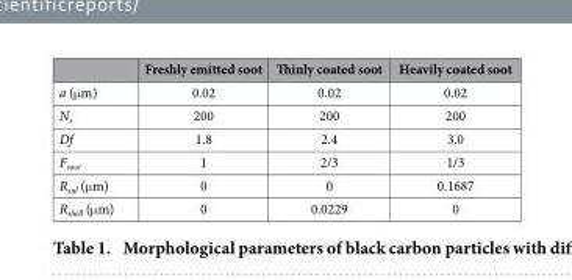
<table><thead><tr><td></td><td>Freshly emitted soot</td><td>Thinly coated soot</td><td>Heavily coated soot</td></tr></thead><tbody><tr><td>a (μ m)</td><td>0.02</td><td>0.02</td><td>0.02</td></tr><tr><td>N<sub>s</sub></td><td>200</td><td>200</td><td>200</td></tr><tr><td>Df</td><td>1.8</td><td>2.4</td><td>3.0</td></tr><tr><td>F<sub>soot</sub></td><td>1</td><td>2/3</td><td>1/3</td></tr><tr><td>R<sub>sul</sub> (μ m)</td><td>0</td><td>0</td><td>0.1687</td></tr><tr><td>R<sub>shell</sub> (μ m)</td><td>0</td><td>0.0229</td><td>0</td></tr></tbody></table>